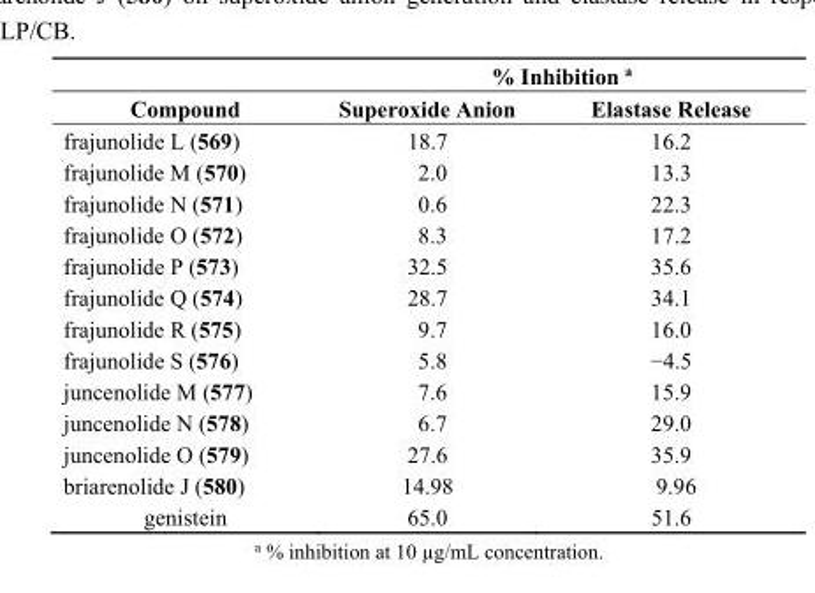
<table><thead><tr><td rowspan="2">Compound</td><td colspan="2">% Inhibition <sup>a</sup></td></tr><tr><td>Superoxide Anion</td><td>Elastase Release</td></tr></thead><tbody><tr><td>frajunolide L (569)</td><td>18.7</td><td>16.2</td></tr><tr><td>frajunolide M (570)</td><td>2.0</td><td>13.3</td></tr><tr><td>frajunolide N (571)</td><td>0.6</td><td>22.3</td></tr><tr><td>frajunolide O (572)</td><td>8.3</td><td>17.2</td></tr><tr><td>frajunolide P (573)</td><td>32.5</td><td>35.6</td></tr><tr><td>frajunolide Q (574)</td><td>28.7</td><td>34.1</td></tr><tr><td>frajunolide R (575)</td><td>9.7</td><td>16.0</td></tr><tr><td>frajunolide S (576)</td><td>5.8</td><td>−4.5</td></tr><tr><td>juncenolide M (577)</td><td>7.6</td><td>15.9</td></tr><tr><td>juncenolide N (578)</td><td>6.7</td><td>29.0</td></tr><tr><td>juncenolide O (579)</td><td>27.6</td><td>35.9</td></tr><tr><td>briarenolide J (580)</td><td>14.98</td><td>9.96</td></tr><tr><td>genistein</td><td>65.0</td><td>51.6</td></tr></tbody></table>